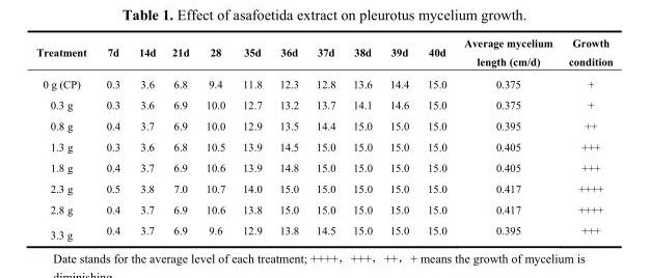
<table><thead><tr><td>Treatment</td><td>7d</td><td>14d</td><td>21d</td><td>28</td><td>35d</td><td>36d</td><td>37d</td><td>38d</td><td>39d</td><td>40d</td><td>Average mycelium length (cm/d)</td><td>Growth condition</td></tr></thead><tbody><tr><td>0 g (CP)</td><td>0.3</td><td>3.6</td><td>6.8</td><td>9.4</td><td>11.8</td><td>12.3</td><td>12.8</td><td>13.6</td><td>14.4</td><td>15.0</td><td>0.375</td><td>+</td></tr><tr><td>0.3 g</td><td>0.3</td><td>3.6</td><td>6.9</td><td>10.0</td><td>12.7</td><td>13.2</td><td>13.7</td><td>14.1</td><td>14.6</td><td>15.0</td><td>0.375</td><td>+</td></tr><tr><td>0.8 g</td><td>0.4</td><td>3.7</td><td>6.9</td><td>10.0</td><td>12.9</td><td>13.5</td><td>14.4</td><td>15.0</td><td>15.0</td><td>15.0</td><td>0.395</td><td>++</td></tr><tr><td>1.3 g</td><td>0.3</td><td>3.6</td><td>6.8</td><td>10.5</td><td>13.9</td><td>14.5</td><td>15.0</td><td>15.0</td><td>15.0</td><td>15.0</td><td>0.405</td><td>+++</td></tr><tr><td>1.8 g</td><td>0.4</td><td>3.7</td><td>6.9</td><td>10.6</td><td>13.9</td><td>14.8</td><td>15.0</td><td>15.0</td><td>15.0</td><td>15.0</td><td>0.405</td><td>+++</td></tr><tr><td>2.3 g</td><td>0.5</td><td>3.8</td><td>7.0</td><td>10.7</td><td>14.0</td><td>15.0</td><td>15.0</td><td>15.0</td><td>15.0</td><td>15.0</td><td>0.417</td><td>++++</td></tr><tr><td>2.8 g</td><td>0.4</td><td>3.7</td><td>6.9</td><td>10.6</td><td>13.8</td><td>15.0</td><td>15.0</td><td>15.0</td><td>15.0</td><td>15.0</td><td>0.417</td><td>++++</td></tr><tr><td>3.3 g</td><td>0.4</td><td>3.7</td><td>6.9</td><td>9.6</td><td>12.9</td><td>13.8</td><td>14.5</td><td>15.0</td><td>15.0</td><td>15.0</td><td>0.395</td><td>+++</td></tr></tbody></table>